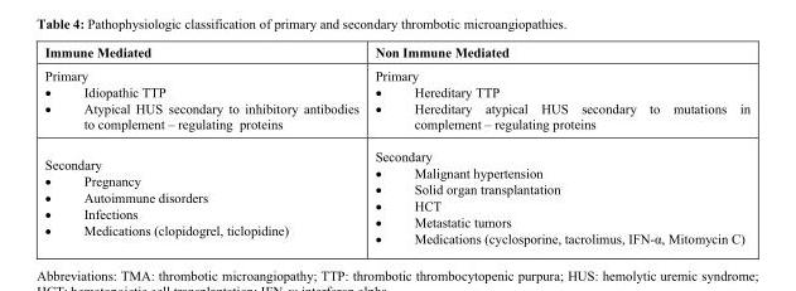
<table><thead><tr><td>Immune Mediated</td><td>Non Immune Mediated</td></tr></thead><tbody><tr><td>Primary  Idiopathic TTP  Atypical HUS secondary to inhibitory antibodies to complement – regulating proteins</td><td>Primary  Hereditary TTP  Hereditary atypical HUS secondary to mutations in complement – regulating proteins</td></tr><tr><td>Secondary  Pregnancy  Autoimmune disorders  Infections  Medications (clopidogrel, ticlopidine)</td><td>Secondary  Malignant hypertension  Solid organ transplantation  HCT  Metastatic tumors  Medications (cyclosporine, tacrolimus, IFN-α, Mitomycin C)</td></tr></tbody></table>